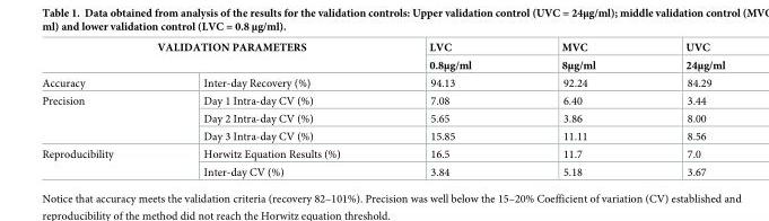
<table><thead><tr><td rowspan="2" colspan="2">VALIDATION PARAMETERS</td><td rowspan="3">LVC 0.8μg/ml 94.13</td><td rowspan="3">MVC 8μg/ml 92.24</td><td rowspan="3">UVC 24μg/ml 84.29</td></tr><tr></tr><tr><td>Accuracy</td><td>Inter-day Recovery (%)</td></tr></thead><tbody><tr><td rowspan="3">Precision</td><td>Day 1 Intra-day CV (%)</td><td>7.08</td><td>6.40</td><td>3.44</td></tr><tr><td>Day 2 Intra-day CV (%)</td><td>5.65</td><td>3.86</td><td>8.00</td></tr><tr><td>Day 3 Intra-day CV (%)</td><td>15.85</td><td>11.11</td><td>8.56</td></tr><tr><td rowspan="2">Reproducibility</td><td>Horwitz Equation Results (%)</td><td>16.5</td><td>11.7</td><td>7.0</td></tr><tr><td>Inter-day CV (%)</td><td>3.84</td><td>5.18</td><td>3.67</td></tr></tbody></table>